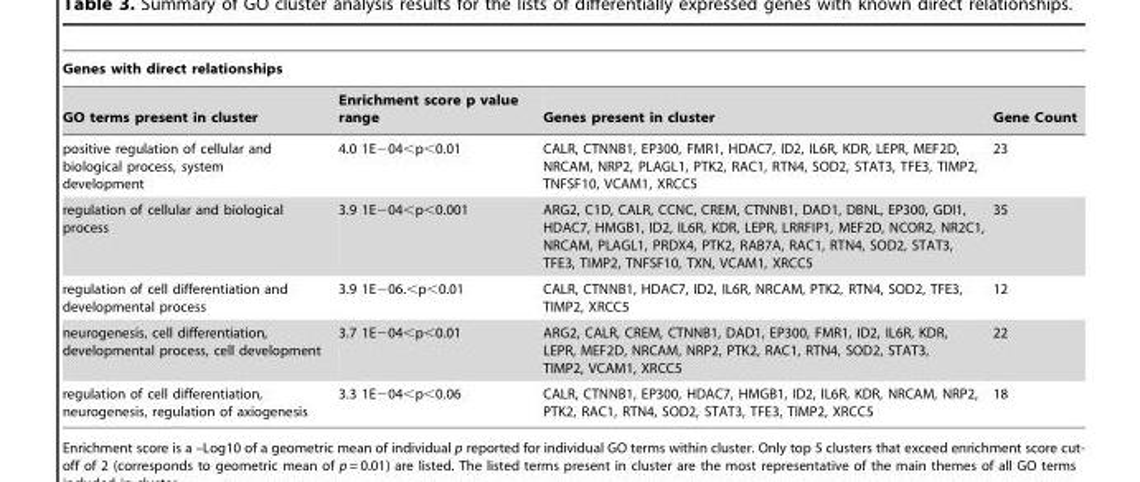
<table><thead><tr><td colspan="4">Genes with direct relationships</td></tr><tr><td>GO terms present in cluster</td><td>Enrichment score p value range</td><td>Genes present in cluster</td><td>Gene Count</td></tr></thead><tbody><tr><td>positive regulation of cellular and biological process, system development</td><td>4.0 1E−04&lt;p&lt;0.01</td><td>CALR, CTNNB1, EP300, FMR1, HDAC7, ID2, IL6R, KDR, LEPR, MEF2D, NRCAM, NRP2, PLAGL1, PTK2, RAC1, RTN4, SOD2, STAT3, TFE3, TIMP2, TNFSF10, VCAM1, XRCC5</td><td>23</td></tr><tr><td>regulation of cellular and biological process</td><td>3.9 1E−04&lt;p&lt;0.001</td><td>ARG2, C1D, CALR, CCNC, CREM, CTNNB1, DAD1, DBNL, EP300, GDI1, HDAC7, HMGB1, ID2, IL6R, KDR, LEPR, LRRFIP1, MEF2D, NCOR2, NR2C1, NRCAM, PLAGL1, PRDX4, PTK2, RAB7A, RAC1, RTN4, SOD2, STAT3, TFE3, TIMP2, TNFSF10, TXN, VCAM1, XRCC5</td><td>35</td></tr><tr><td>regulation of cell differentiation and developmental process</td><td>3.9 1E−06.&lt;p&lt;0.01</td><td>CALR, CTNNB1, HDAC7, ID2, IL6R, NRCAM, PTK2, RTN4, SOD2, TFE3, TIMP2, XRCC5</td><td>12</td></tr><tr><td>neurogenesis, cell differentiation, developmental process, cell development</td><td>3.7 1E−04&lt;p&lt;0.01</td><td>ARG2, CALR, CREM, CTNNB1, DAD1, EP300, FMR1, ID2, IL6R, KDR, LEPR, MEF2D, NRCAM, NRP2, PTK2, RAC1, RTN4, SOD2, STAT3, TIMP2, VCAM1, XRCC5</td><td>22</td></tr><tr><td>regulation of cell differentiation, neurogenesis, regulation of axiogenesis</td><td>3.3 1E−04&lt;p&lt;0.06</td><td>CALR, CTNNB1, EP300, HDAC7, HMGB1, ID2, IL6R, KDR, NRCAM, NRP2, PTK2, RAC1, RTN4, SOD2, STAT3, TFE3, TIMP2, XRCC5</td><td>18</td></tr></tbody></table>